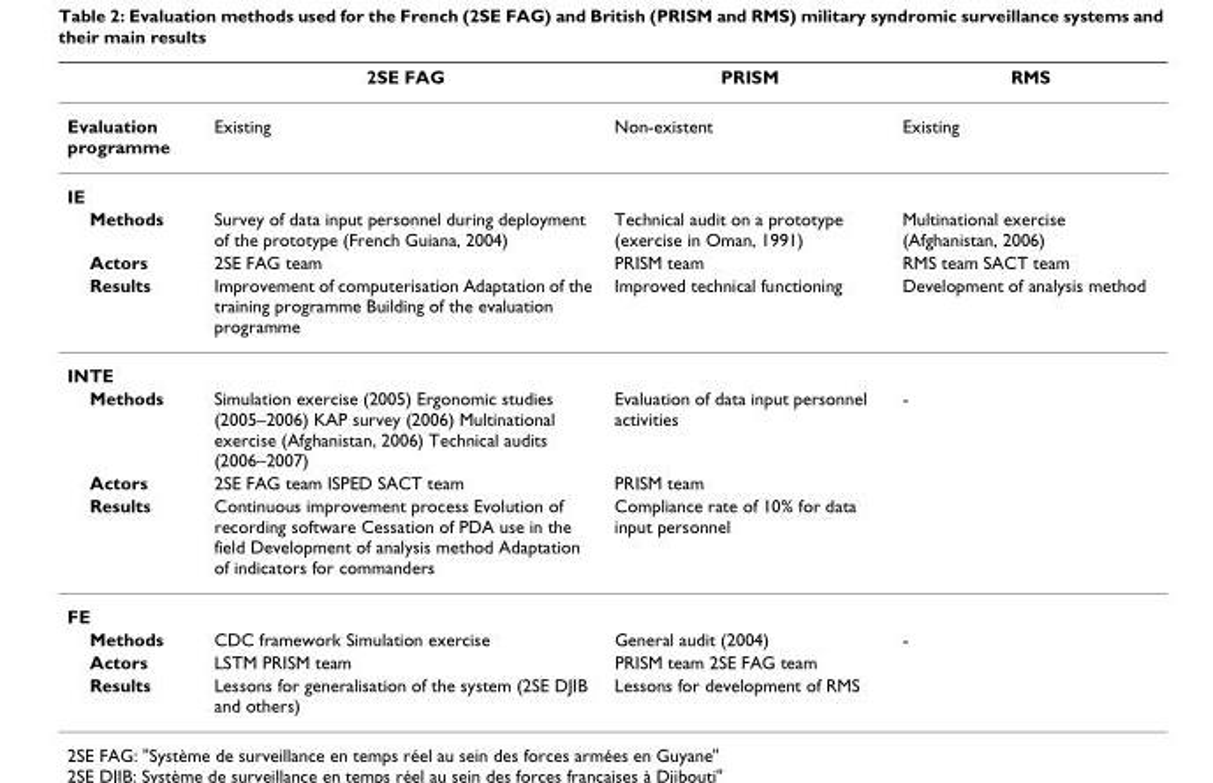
<table><thead><tr><td></td><td>2SE FAG</td><td>PRISM</td><td>RMS</td></tr></thead><tbody><tr><td>Evaluation programme</td><td>Existing</td><td>Non-existent</td><td>Existing</td></tr><tr><td colspan="4">IE</td></tr><tr><td>Methods</td><td>Survey of data input personnel during deployment of the prototype (French Guiana, 2004)</td><td>Technical audit on a prototype (exercise in Oman, 1991)</td><td>Multinational exercise (Afghanistan, 2006)</td></tr><tr><td>Actors</td><td>2SE FAG team</td><td>PRISM team</td><td>RMS team SACT team</td></tr><tr><td>Results</td><td>Improvement of computerisation Adaptation of the training programme Building of the evaluation programme</td><td>Improved technical functioning</td><td>Development of analysis method</td></tr><tr><td colspan="4">INTE</td></tr><tr><td>Methods</td><td>Simulation exercise (2005) Ergonomic studies (2005–2006) KAP survey (2006) Multinational exercise (Afghanistan, 2006) Technical audits (2006–2007)</td><td>Evaluation of data input personnel activities</td><td>-</td></tr><tr><td>Actors</td><td>2SE FAG team ISPED SACT team</td><td>PRISM team</td><td></td></tr><tr><td>Results</td><td>Continuous improvement process Evolution of recording software Cessation of PDA use in the field Development of analysis method Adaptation of indicators for commanders</td><td>Compliance rate of 10% for data input personnel</td><td></td></tr><tr><td colspan="4">FE</td></tr><tr><td>Methods</td><td>CDC framework Simulation exercise</td><td>General audit (2004)</td><td>-</td></tr><tr><td>Actors</td><td>LSTM PRISM team</td><td>PRISM team 2SE FAG team</td><td></td></tr><tr><td>Results</td><td>Lessons for generalisation of the system (2SE DJIB and others)</td><td>Lessons for development of RMS</td><td></td></tr></tbody></table>